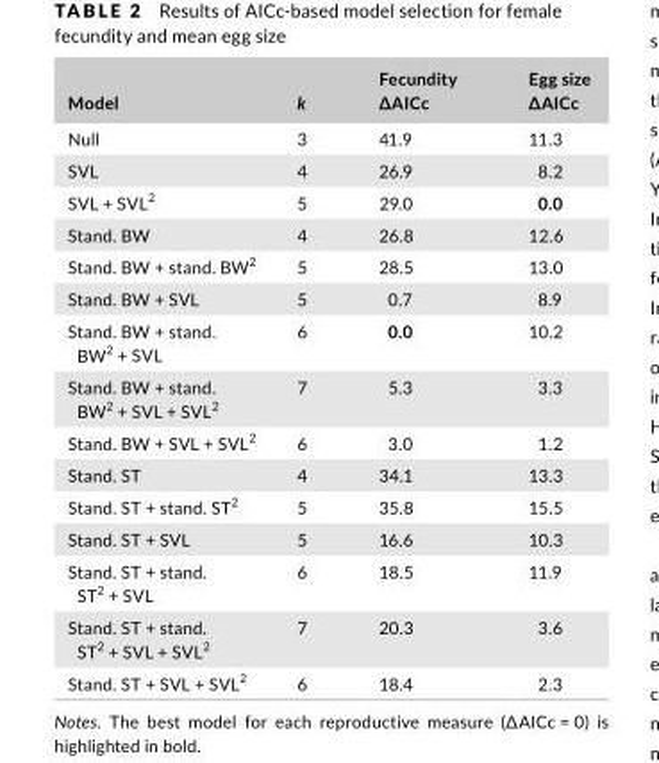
<table><thead><tr><td>Model</td><td>k</td><td>Fecundity ∆AICc</td><td>Egg size ∆AICc</td></tr></thead><tbody><tr><td>Null</td><td>3</td><td>41.9</td><td>11.3</td></tr><tr><td>SVL</td><td>4</td><td>26.9</td><td>8.2</td></tr><tr><td>SVL + SVL<sup>2</sup></td><td>5</td><td>29.0</td><td>0.0</td></tr><tr><td>Stand. BW</td><td>4</td><td>26.8</td><td>12.6</td></tr><tr><td>Stand. BW + stand. BW<sup>2</sup></td><td>5</td><td>28.5</td><td>13.0</td></tr><tr><td>Stand. BW + SVL</td><td>5</td><td>0.7</td><td>8.9</td></tr><tr><td>Stand. BW + stand. BW<sup>2</sup> + SVL</td><td>6</td><td>0.0</td><td>10.2</td></tr><tr><td>Stand. BW + stand. BW<sup>2</sup> + SVL + SVL<sup>2</sup></td><td>7</td><td>5.3</td><td>3.3</td></tr><tr><td>Stand. BW + SVL + SVL<sup>2</sup></td><td>6</td><td>3.0</td><td>1.2</td></tr><tr><td>Stand. ST</td><td>4</td><td>34.1</td><td>13.3</td></tr><tr><td>Stand. ST + stand. ST<sup>2</sup></td><td>5</td><td>35.8</td><td>15.5</td></tr><tr><td>Stand. ST + SVL</td><td>5</td><td>16.6</td><td>10.3</td></tr><tr><td>Stand. ST + stand. ST<sup>2</sup> + SVL</td><td>6</td><td>18.5</td><td>11.9</td></tr><tr><td>Stand. ST + stand. ST<sup>2</sup> + SVL + SVL<sup>2</sup></td><td>7</td><td>20.3</td><td>3.6</td></tr><tr><td>Stand. ST + SVL + SVL<sup>2</sup></td><td>6</td><td>18.4</td><td>2.3</td></tr></tbody></table>